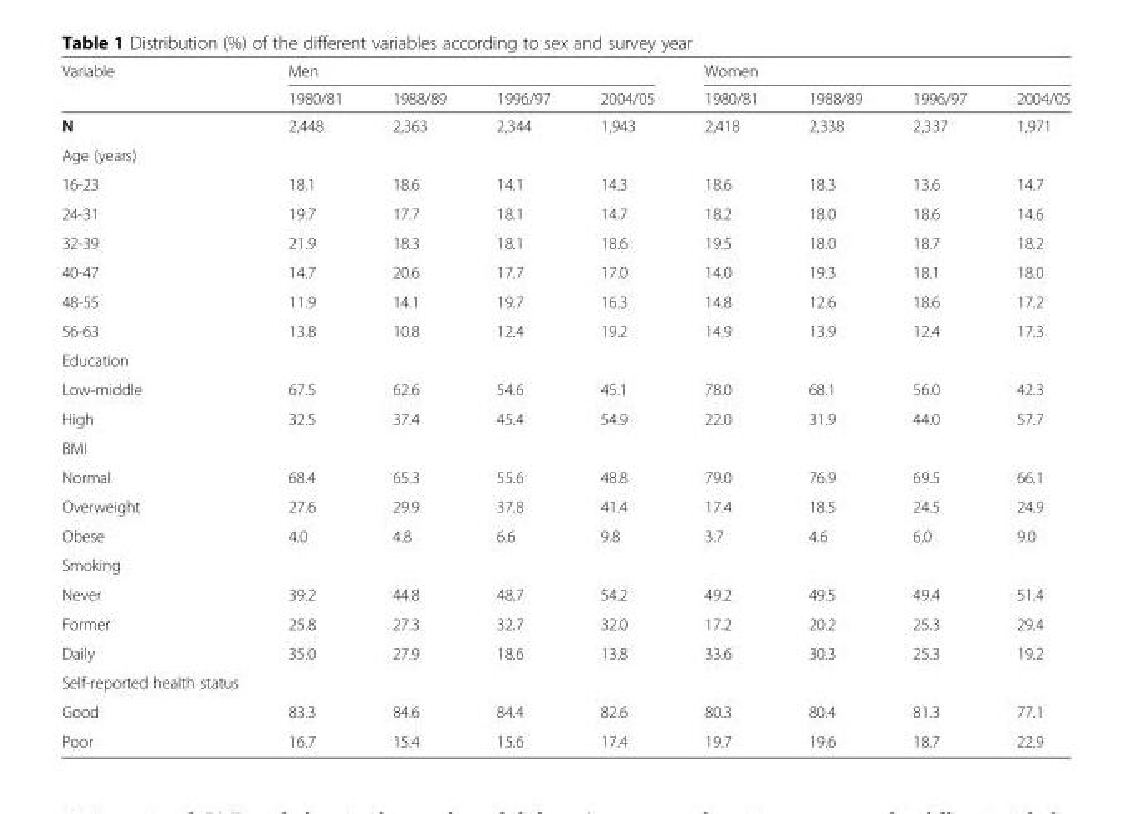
<table><thead><tr><td rowspan="2">Variable</td><td colspan="4">Men</td><td colspan="4">Women</td></tr><tr><td>1980/81</td><td>1988/89</td><td>1996/97</td><td>2004/05</td><td>1980/81</td><td>1988/89</td><td>1996/97</td><td>2004/05</td></tr></thead><tbody><tr><td>N</td><td>2,448</td><td>2,363</td><td>2,344</td><td>1,943</td><td>2,418</td><td>2,338</td><td>2,337</td><td>1,971</td></tr><tr><td colspan="9">Age (years)</td></tr><tr><td>16-23</td><td>18.1</td><td>18.6</td><td>14.1</td><td>14.3</td><td>18.6</td><td>18.3</td><td>13.6</td><td>14.7</td></tr><tr><td>24-31</td><td>19.7</td><td>17.7</td><td>18.1</td><td>14.7</td><td>18.2</td><td>18.0</td><td>18.6</td><td>14.6</td></tr><tr><td>32-39</td><td>21.9</td><td>18.3</td><td>18.1</td><td>18.6</td><td>19.5</td><td>18.0</td><td>18.7</td><td>18.2</td></tr><tr><td>40-47</td><td>14.7</td><td>20.6</td><td>17.7</td><td>17.0</td><td>14.0</td><td>19.3</td><td>18.1</td><td>18.0</td></tr><tr><td>48-55</td><td>11.9</td><td>14.1</td><td>19.7</td><td>16.3</td><td>14.8</td><td>12.6</td><td>18.6</td><td>17.2</td></tr><tr><td>56-63</td><td>13.8</td><td>10.8</td><td>12.4</td><td>19.2</td><td>14.9</td><td>13.9</td><td>12.4</td><td>17.3</td></tr><tr><td colspan="9">Education</td></tr><tr><td>Low-middle</td><td>67.5</td><td>62.6</td><td>54.6</td><td>45.1</td><td>78.0</td><td>68.1</td><td>56.0</td><td>42.3</td></tr><tr><td>High</td><td>32.5</td><td>37.4</td><td>45.4</td><td>54.9</td><td>22.0</td><td>31.9</td><td>44.0</td><td>57.7</td></tr><tr><td colspan="9">BMI</td></tr><tr><td>Normal</td><td>68.4</td><td>65.3</td><td>55.6</td><td>48.8</td><td>79.0</td><td>76.9</td><td>69.5</td><td>66.1</td></tr><tr><td>Overweight</td><td>27.6</td><td>29.9</td><td>37.8</td><td>41.4</td><td>17.4</td><td>18.5</td><td>24.5</td><td>24.9</td></tr><tr><td>Obese</td><td>4.0</td><td>4.8</td><td>6.6</td><td>9.8</td><td>3.7</td><td>4.6</td><td>6.0</td><td>9.0</td></tr><tr><td colspan="9">Smoking</td></tr><tr><td>Never</td><td>39.2</td><td>44.8</td><td>48.7</td><td>54.2</td><td>49.2</td><td>49.5</td><td>49.4</td><td>51.4</td></tr><tr><td>Former</td><td>25.8</td><td>27.3</td><td>32.7</td><td>32.0</td><td>17.2</td><td>20.2</td><td>25.3</td><td>29.4</td></tr><tr><td>Daily</td><td>35.0</td><td>27.9</td><td>18.6</td><td>13.8</td><td>33.6</td><td>30.3</td><td>25.3</td><td>19.2</td></tr><tr><td colspan="9">Self-reported health status</td></tr><tr><td>Good</td><td>83.3</td><td>84.6</td><td>84.4</td><td>82.6</td><td>80.3</td><td>80.4</td><td>81.3</td><td>77.1</td></tr><tr><td>Poor</td><td>16.7</td><td>15.4</td><td>15.6</td><td>17.4</td><td>19.7</td><td>19.6</td><td>18.7</td><td>22.9</td></tr></tbody></table>